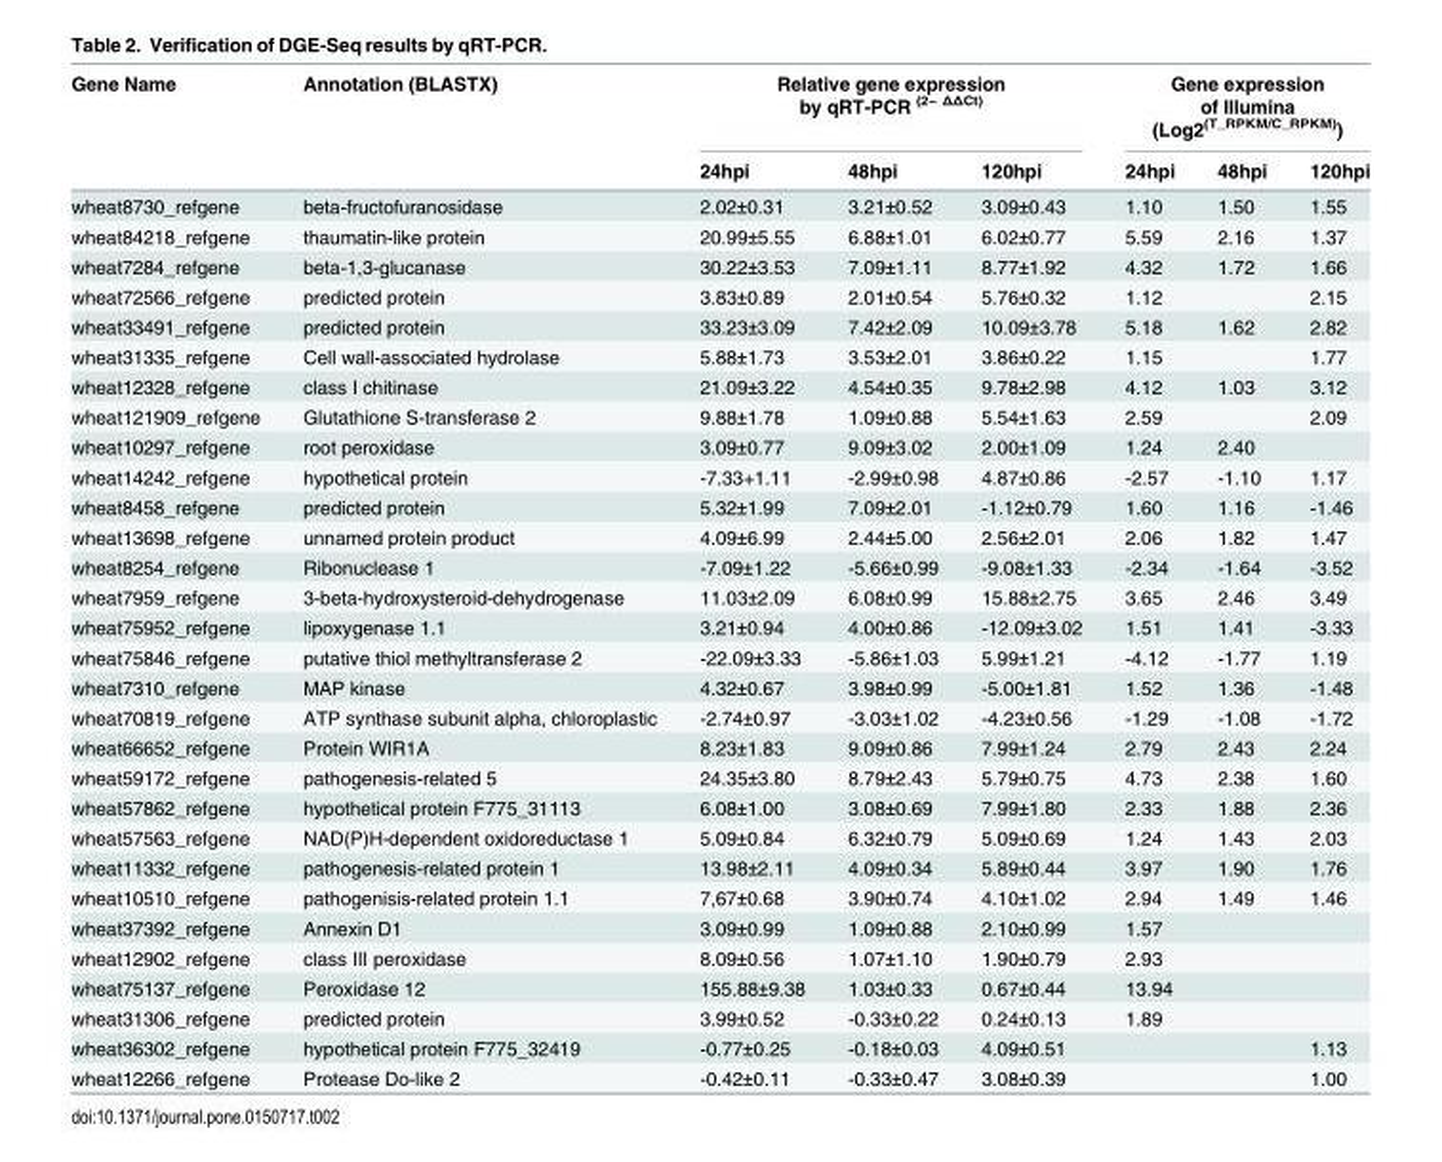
<table><thead><tr><td rowspan="2">Gene Name</td><td rowspan="2">Annotation (BLASTX)</td><td colspan="3">Relative gene expression by qRT-PCR <sup>(2− ΔΔCt)</sup></td><td colspan="3">Gene expression of Illumina (Log2<sup>(T_RPKM/C_RPKM)</sup>)</td></tr><tr><td>24hpi</td><td>48hpi</td><td>120hpi</td><td>24hpi</td><td>48hpi</td><td>120hpi</td></tr></thead><tbody><tr><td>wheat8730_refgene</td><td>beta-fructofuranosidase</td><td>2.02±0.31</td><td>3.21±0.52</td><td>3.09±0.43</td><td>1.10</td><td>1.50</td><td>1.55</td></tr><tr><td>wheat84218_refgene</td><td>thaumatin-like protein</td><td>20.99±5.55</td><td>6.88±1.01</td><td>6.02±0.77</td><td>5.59</td><td>2.16</td><td>1.37</td></tr><tr><td>wheat7284_refgene</td><td>beta-1,3-glucanase</td><td>30.22±3.53</td><td>7.09±1.11</td><td>8.77±1.92</td><td>4.32</td><td>1.72</td><td>1.66</td></tr><tr><td>wheat72566_refgene</td><td>predicted protein</td><td>3.83±0.89</td><td>2.01±0.54</td><td>5.76±0.32</td><td>1.12</td><td></td><td>2.15</td></tr><tr><td>wheat33491_refgene</td><td>predicted protein</td><td>33.23±3.09</td><td>7.42±2.09</td><td>10.09±3.78</td><td>5.18</td><td>1.62</td><td>2.82</td></tr><tr><td>wheat31335_refgene</td><td>Cell wall-associated hydrolase</td><td>5.88±1.73</td><td>3.53±2.01</td><td>3.86±0.22</td><td>1.15</td><td></td><td>1.77</td></tr><tr><td>wheat12328_refgene</td><td>class I chitinase</td><td>21.09±3.22</td><td>4.54±0.35</td><td>9.78±2.98</td><td>4.12</td><td>1.03</td><td>3.12</td></tr><tr><td>wheat121909_refgene</td><td>Glutathione S-transferase 2</td><td>9.88±1.78</td><td>1.09±0.88</td><td>5.54±1.63</td><td>2.59</td><td></td><td>2.09</td></tr><tr><td>wheat10297_refgene</td><td>root peroxidase</td><td>3.09±0.77</td><td>9.09±3.02</td><td>2.00±1.09</td><td>1.24</td><td>2.40</td><td></td></tr><tr><td>wheat14242_refgene</td><td>hypothetical protein</td><td>-7.33+1.11</td><td>-2.99±0.98</td><td>4.87±0.86</td><td>-2.57</td><td>-1.10</td><td>1.17</td></tr><tr><td>wheat8458_refgene</td><td>predicted protein</td><td>5.32±1.99</td><td>7.09±2.01</td><td>-1.12±0.79</td><td>1.60</td><td>1.16</td><td>-1.46</td></tr><tr><td>wheat13698_refgene</td><td>unnamed protein product</td><td>4.09±6.99</td><td>2.44±5.00</td><td>2.56±2.01</td><td>2.06</td><td>1.82</td><td>1.47</td></tr><tr><td>wheat8254_refgene</td><td>Ribonuclease 1</td><td>-7.09±1.22</td><td>-5.66±0.99</td><td>-9.08±1.33</td><td>-2.34</td><td>-1.64</td><td>-3.52</td></tr><tr><td>wheat7959_refgene</td><td>3-beta-hydroxysteroid-dehydrogenase</td><td>11.03±2.09</td><td>6.08±0.99</td><td>15.88±2.75</td><td>3.65</td><td>2.46</td><td>3.49</td></tr><tr><td>wheat75952_refgene</td><td>lipoxygenase 1.1</td><td>3.21±0.94</td><td>4.00±0.86</td><td>-12.09±3.02</td><td>1.51</td><td>1.41</td><td>-3.33</td></tr><tr><td>wheat75846_refgene</td><td>putative thiol methyltransferase 2</td><td>-22.09±3.33</td><td>-5.86±1.03</td><td>5.99±1.21</td><td>-4.12</td><td>-1.77</td><td>1.19</td></tr><tr><td>wheat7310_refgene</td><td>MAP kinase</td><td>4.32±0.67</td><td>3.98±0.99</td><td>-5.00±1.81</td><td>1.52</td><td>1.36</td><td>-1.48</td></tr><tr><td>wheat70819_refgene</td><td>ATP synthase subunit alpha, chloroplastic</td><td>-2.74±0.97</td><td>-3.03±1.02</td><td>-4.23±0.56</td><td>-1.29</td><td>-1.08</td><td>-1.72</td></tr><tr><td>wheat66652_refgene</td><td>Protein WIR1A</td><td>8.23±1.83</td><td>9.09±0.86</td><td>7.99±1.24</td><td>2.79</td><td>2.43</td><td>2.24</td></tr><tr><td>wheat59172_refgene</td><td>pathogenesis-related 5</td><td>24.35±3.80</td><td>8.79±2.43</td><td>5.79±0.75</td><td>4.73</td><td>2.38</td><td>1.60</td></tr><tr><td>wheat57862_refgene</td><td>hypothetical protein F775_31113</td><td>6.08±1.00</td><td>3.08±0.69</td><td>7.99±1.80</td><td>2.33</td><td>1.88</td><td>2.36</td></tr><tr><td>wheat57563_refgene</td><td>NAD(P)H-dependent oxidoreductase 1</td><td>5.09±0.84</td><td>6.32±0.79</td><td>5.09±0.69</td><td>1.24</td><td>1.43</td><td>2.03</td></tr><tr><td>wheat11332_refgene</td><td>pathogenesis-related protein 1</td><td>13.98±2.11</td><td>4.09±0.34</td><td>5.89±0.44</td><td>3.97</td><td>1.90</td><td>1.76</td></tr><tr><td>wheat10510_refgene</td><td>pathogenisis-related protein 1.1</td><td>7,67±0.68</td><td>3.90±0.74</td><td>4.10±1.02</td><td>2.94</td><td>1.49</td><td>1.46</td></tr><tr><td>wheat37392_refgene</td><td>Annexin D1</td><td>3.09±0.99</td><td>1.09±0.88</td><td>2.10±0.99</td><td>1.57</td><td></td><td></td></tr><tr><td>wheat12902_refgene</td><td>class III peroxidase</td><td>8.09±0.56</td><td>1.07±1.10</td><td>1.90±0.79</td><td>2.93</td><td></td><td></td></tr><tr><td>wheat75137_refgene</td><td>Peroxidase 12</td><td>155.88±9.38</td><td>1.03±0.33</td><td>0.67±0.44</td><td>13.94</td><td></td><td></td></tr><tr><td>wheat31306_refgene</td><td>predicted protein</td><td>3.99±0.52</td><td>-0.33±0.22</td><td>0.24±0.13</td><td>1.89</td><td></td><td></td></tr><tr><td>wheat36302_refgene</td><td>hypothetical protein F775_32419</td><td>-0.77±0.25</td><td>-0.18±0.03</td><td>4.09±0.51</td><td></td><td></td><td>1.13</td></tr><tr><td>wheat12266_refgene</td><td>Protease Do-like 2</td><td>-0.42±0.11</td><td>-0.33±0.47</td><td>3.08±0.39</td><td></td><td></td><td>1.00</td></tr></tbody></table>